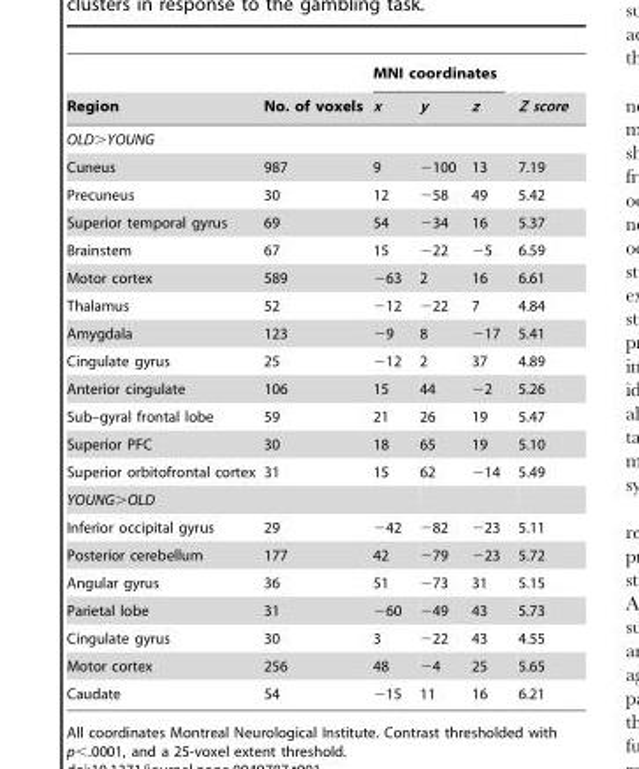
<table><thead><tr><td rowspan="2">Region</td><td rowspan="2">No. of voxels</td><td colspan="3">MNI coordinates</td><td rowspan="2">Z score</td></tr><tr><td>x</td><td>y</td><td>z</td></tr></thead><tbody><tr><td colspan="6">OLD&gt;YOUNG</td></tr><tr><td>Cuneus</td><td>987</td><td>9</td><td>−100</td><td>13</td><td>7.19</td></tr><tr><td>Precuneus</td><td>30</td><td>12</td><td>−58</td><td>49</td><td>5.42</td></tr><tr><td>Superior temporal gyrus</td><td>69</td><td>54</td><td>−34</td><td>16</td><td>5.37</td></tr><tr><td>Brainstem</td><td>67</td><td>15</td><td>−22</td><td>−5</td><td>6.59</td></tr><tr><td>Motor cortex</td><td>589</td><td>−63</td><td>2</td><td>16</td><td>6.61</td></tr><tr><td>Thalamus</td><td>52</td><td>−12</td><td>−22</td><td>7</td><td>4.84</td></tr><tr><td>Amygdala</td><td>123</td><td>−9</td><td>8</td><td>−17</td><td>5.41</td></tr><tr><td>Cingulate gyrus</td><td>25</td><td>−12</td><td>2</td><td>37</td><td>4.89</td></tr><tr><td>Anterior cingulate</td><td>106</td><td>15</td><td>44</td><td>−2</td><td>5.26</td></tr><tr><td>Sub–gyral frontal lobe</td><td>59</td><td>21</td><td>26</td><td>19</td><td>5.47</td></tr><tr><td>Superior PFC</td><td>30</td><td>18</td><td>65</td><td>19</td><td>5.10</td></tr><tr><td>Superior orbitofrontal cortex</td><td>31</td><td>15</td><td>62</td><td>−14</td><td>5.49</td></tr><tr><td colspan="6">YOUNG&gt;OLD</td></tr><tr><td>Inferior occipital gyrus</td><td>29</td><td>−42</td><td>−82</td><td>−23</td><td>5.11</td></tr><tr><td>Posterior cerebellum</td><td>177</td><td>42</td><td>−79</td><td>−23</td><td>5.72</td></tr><tr><td>Angular gyrus</td><td>36</td><td>51</td><td>−73</td><td>31</td><td>5.15</td></tr><tr><td>Parietal lobe</td><td>31</td><td>−60</td><td>−49</td><td>43</td><td>5.73</td></tr><tr><td>Cingulate gyrus</td><td>30</td><td>3</td><td>−22</td><td>43</td><td>4.55</td></tr><tr><td>Motor cortex</td><td>256</td><td>48</td><td>−4</td><td>25</td><td>5.65</td></tr><tr><td>Caudate</td><td>54</td><td>−15</td><td>11</td><td>16</td><td>6.21</td></tr></tbody></table>